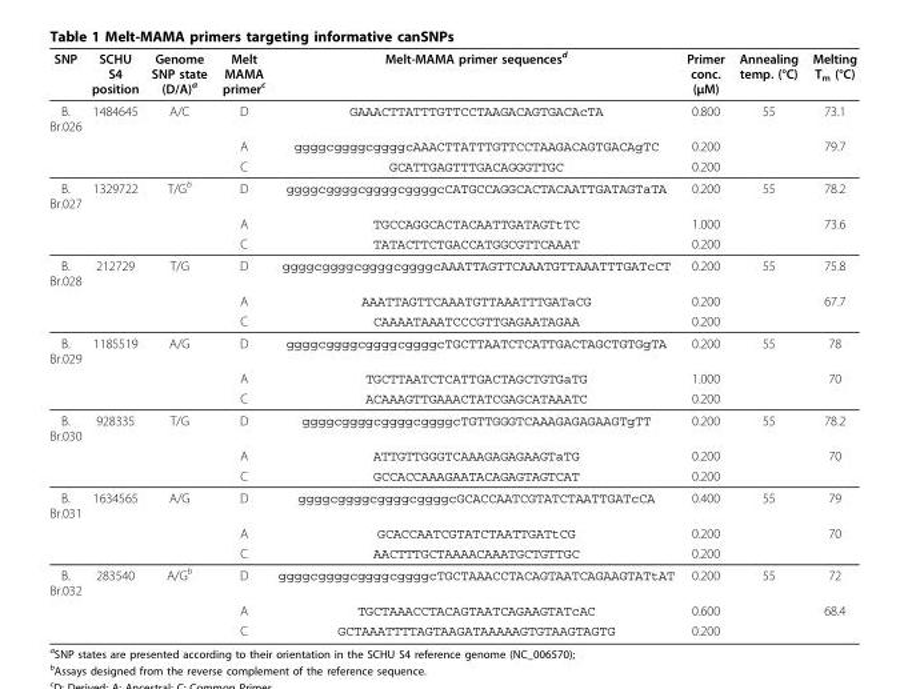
<table><thead><tr><td>SNP</td><td>SCHU S4 position</td><td>Genome SNP state (D/A)<sup>a</sup></td><td>Melt MAMA primer<sup>c</sup></td><td>Melt-MAMA primer sequences<sup>d</sup></td><td>Primer conc. (μM)</td><td>Annealing temp. (°C)</td><td>Melting T<sub>m</sub> (°C)</td></tr></thead><tbody><tr><td rowspan="3">B. Br.026</td><td>1484645</td><td>A/C</td><td>D</td><td>GAAACTTATTTGTTCCTAAGACAGTGACAcTA</td><td>0.800</td><td>55</td><td>73.1</td></tr><tr><td></td><td></td><td>A</td><td>ggggcggggcggggcAAACTTATTTGTTCCTAAGACAGTGACAgTC</td><td>0.200</td><td></td><td>79.7</td></tr><tr><td></td><td></td><td>C</td><td>GCATTGAGTTTGACAGGGTTGC</td><td>0.200</td><td></td><td></td></tr><tr><td rowspan="3">B. Br.027</td><td>1329722</td><td>T/G<sup>b</sup></td><td>D</td><td>ggggcggggcggggcggggcCATGCCAGGCACTACAATTGATAGTaTA</td><td>0.200</td><td>55</td><td>78.2</td></tr><tr><td></td><td></td><td>A</td><td>TGCCAGGCACTACAATTGATAGTtTC</td><td>1.000</td><td></td><td>73.6</td></tr><tr><td></td><td></td><td>C</td><td>TATACTTCTGACCATGGCGTTCAAAT</td><td>0.200</td><td></td><td></td></tr><tr><td rowspan="3">B. Br.028</td><td>212729</td><td>T/G</td><td>D</td><td>ggggcggggcggggcggggcAAATTAGTTCAAATGTTAAATTTGATcCT</td><td>0.200</td><td>55</td><td>75.8</td></tr><tr><td></td><td></td><td>A</td><td>AAATTAGTTCAAATGTTAAATTTGATaCG</td><td>0.200</td><td></td><td>67.7</td></tr><tr><td></td><td></td><td>C</td><td>CAAAATAAATCCCGTTGAGAATAGAA</td><td>0.200</td><td></td><td></td></tr><tr><td rowspan="3">B. Br.029</td><td>1185519</td><td>A/G</td><td>D</td><td>ggggcggggcggggcggggcTGCTTAATCTCATTGACTAGCTGTGgTA</td><td>0.200</td><td>55</td><td>78</td></tr><tr><td></td><td></td><td>A</td><td>TGCTTAATCTCATTGACTAGCTGTGaTG</td><td>1.000</td><td></td><td>70</td></tr><tr><td></td><td></td><td>C</td><td>ACAAAGTTGAAACTATCGAGCATAAATC</td><td>0.200</td><td></td><td></td></tr><tr><td rowspan="3">B. Br.030</td><td>928335</td><td>T/G</td><td>D</td><td>ggggcggggcggggcggggcTGTTGGGTCAAAGAGAGAAGTgTT</td><td>0.200</td><td>55</td><td>78.2</td></tr><tr><td></td><td></td><td>A</td><td>ATTGTTGGGTCAAAGAGAGAAGTaTG</td><td>0.200</td><td></td><td>70</td></tr><tr><td></td><td></td><td>C</td><td>GCCACCAAAGAATACAGAGTAGTCAT</td><td>0.200</td><td></td><td></td></tr><tr><td rowspan="3">B. Br.031</td><td>1634565</td><td>A/G</td><td>D</td><td>ggggcggggcggggcggggcGCACCAATCGTATCTAATTGATcCA</td><td>0.400</td><td>55</td><td>79</td></tr><tr><td></td><td></td><td>A</td><td>GCACCAATCGTATCTAATTGATtCG</td><td>0.200</td><td></td><td>70</td></tr><tr><td></td><td></td><td>C</td><td>AACTTTGCTAAAACAAATGCTGTTGC</td><td>0.200</td><td></td><td></td></tr><tr><td rowspan="3">B. Br.032</td><td>283540</td><td>A/G<sup>b</sup></td><td>D</td><td>ggggcggggcggggcggggcTGCTAAACCTACAGTAATCAGAAGTATtAT</td><td>0.200</td><td>55</td><td>72</td></tr><tr><td></td><td></td><td>A</td><td>TGCTAAACCTACAGTAATCAGAAGTATcAC</td><td>0.600</td><td></td><td>68.4</td></tr><tr><td></td><td></td><td>C</td><td>GCTAAATTTTAGTAAGATAAAAAGTGTAAGTAGTG</td><td>0.200</td><td></td><td></td></tr></tbody></table>